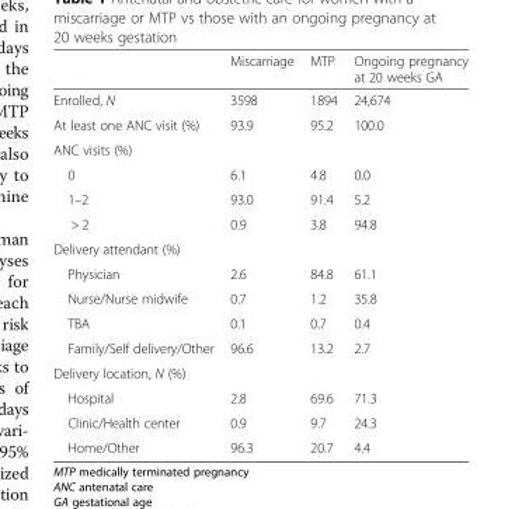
<table><thead><tr><td></td><td>Miscarriage</td><td>MTP</td><td>Ongoing pregnancy at 20 weeks GA</td></tr></thead><tbody><tr><td>Enrolled, N</td><td>3598</td><td>1894</td><td>24,674</td></tr><tr><td>At least one ANC visit (%)</td><td>93.9</td><td>95.2</td><td>100.0</td></tr><tr><td colspan="4">ANC visits (%)</td></tr><tr><td>0</td><td>6.1</td><td>4.8</td><td>0.0</td></tr><tr><td>1–2</td><td>93.0</td><td>91.4</td><td>5.2</td></tr><tr><td>&gt; 2</td><td>0.9</td><td>3.8</td><td>94.8</td></tr><tr><td colspan="4">Delivery attendant (%)</td></tr><tr><td>Physician</td><td>2.6</td><td>84.8</td><td>61.1</td></tr><tr><td>Nurse/Nurse midwife</td><td>0.7</td><td>1.2</td><td>35.8</td></tr><tr><td>TBA</td><td>0.1</td><td>0.7</td><td>0.4</td></tr><tr><td>Family/Self delivery/Other</td><td>96.6</td><td>13.2</td><td>2.7</td></tr><tr><td colspan="4">Delivery location, N (%)</td></tr><tr><td>Hospital</td><td>2.8</td><td>69.6</td><td>71.3</td></tr><tr><td>Clinic/Health center</td><td>0.9</td><td>9.7</td><td>24.3</td></tr><tr><td>Home/Other</td><td>96.3</td><td>20.7</td><td>4.4</td></tr></tbody></table>